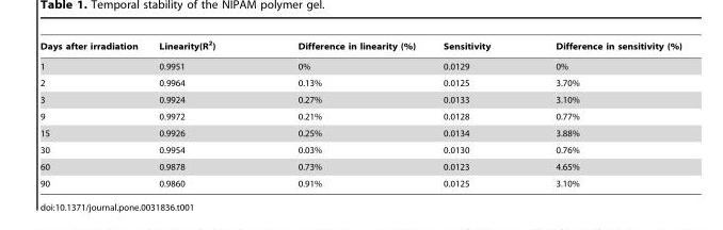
<table><thead><tr><td>Days after irradiation</td><td>Linearity(R<sup>2</sup>)</td><td>Difference in linearity (%)</td><td>Sensitivity</td><td>Difference in sensitivity (%)</td></tr></thead><tbody><tr><td>1</td><td>0.9951</td><td>0%</td><td>0.0129</td><td>0%</td></tr><tr><td>2</td><td>0.9964</td><td>0.13%</td><td>0.0125</td><td>3.70%</td></tr><tr><td>3</td><td>0.9924</td><td>0.27%</td><td>0.0133</td><td>3.10%</td></tr><tr><td>9</td><td>0.9972</td><td>0.21%</td><td>0.0128</td><td>0.77%</td></tr><tr><td>15</td><td>0.9926</td><td>0.25%</td><td>0.0134</td><td>3.88%</td></tr><tr><td>30</td><td>0.9954</td><td>0.03%</td><td>0.0130</td><td>0.76%</td></tr><tr><td>60</td><td>0.9878</td><td>0.73%</td><td>0.0123</td><td>4.65%</td></tr><tr><td>90</td><td>0.9860</td><td>0.91%</td><td>0.0125</td><td>3.10%</td></tr></tbody></table>